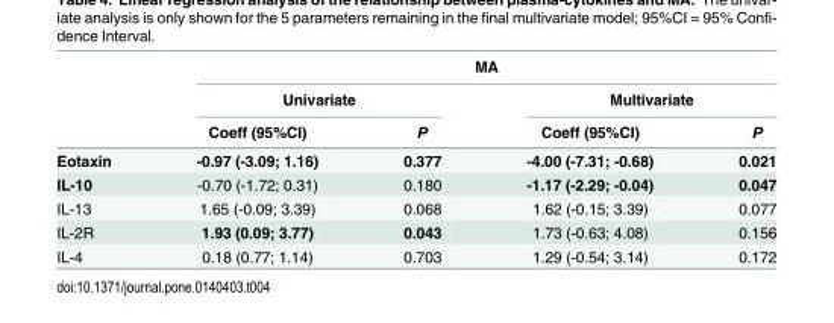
<table><thead><tr><td rowspan="3"></td><td colspan="4">MA</td></tr><tr><td colspan="2">Univariate</td><td colspan="2">Multivariate</td></tr><tr><td>Coeff (95%CI)</td><td>P</td><td>Coeff (95%CI)</td><td>P</td></tr></thead><tbody><tr><td>Eotaxin</td><td>-0.97 (-3.09; 1.16)</td><td>0.377</td><td>-4.00 (-7.31; -0.68)</td><td>0.021</td></tr><tr><td>IL-10</td><td>-0.70 (-1.72; 0.31)</td><td>0.180</td><td>-1.17 (-2.29; -0.04)</td><td>0.047</td></tr><tr><td>IL-13</td><td>1.65 (-0.09; 3.39)</td><td>0.068</td><td>1.62 (-0.15; 3.39)</td><td>0.077</td></tr><tr><td>IL-2R</td><td>1.93 (0.09; 3.77)</td><td>0.043</td><td>1.73 (-0.63; 4.08)</td><td>0.156</td></tr><tr><td>IL-4</td><td>0.18 (0.77; 1.14)</td><td>0.703</td><td>1.29 (-0.54; 3.14)</td><td>0.172</td></tr></tbody></table>